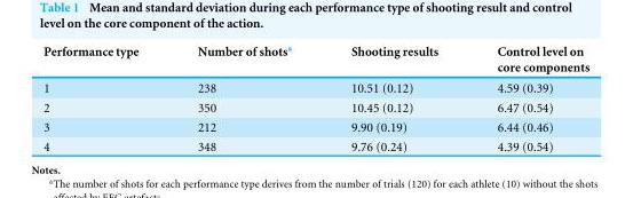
<table><thead><tr><td>Performance type</td><td>Number of shots<sup>a</sup></td><td>Shooting results</td><td>Control level on core components</td></tr></thead><tbody><tr><td>1</td><td>238</td><td>10.51 (0.12)</td><td>4.59 (0.39)</td></tr><tr><td>2</td><td>350</td><td>10.45 (0.12)</td><td>6.47 (0.54)</td></tr><tr><td>3</td><td>212</td><td>9.90 (0.19)</td><td>6.44 (0.46)</td></tr><tr><td>4</td><td>348</td><td>9.76 (0.24)</td><td>4.39 (0.54)</td></tr></tbody></table>